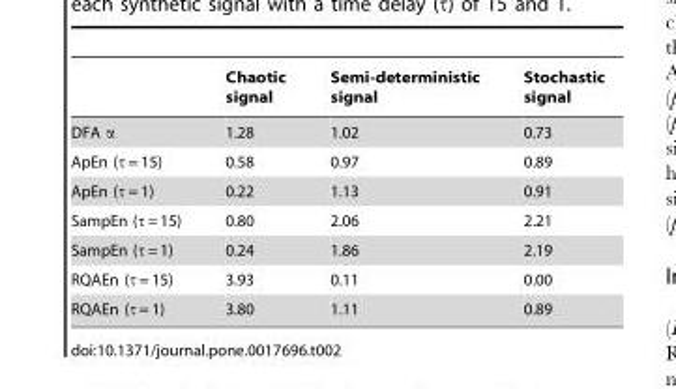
<table><thead><tr><td></td><td>Chaotic signal</td><td>Semi-deterministic signal</td><td>Stochastic signal</td></tr></thead><tbody><tr><td>DFA α</td><td>1.28</td><td>1.02</td><td>0.73</td></tr><tr><td>ApEn (τ = 15)</td><td>0.58</td><td>0.97</td><td>0.89</td></tr><tr><td>ApEn (τ = 1)</td><td>0.22</td><td>1.13</td><td>0.91</td></tr><tr><td>SampEn (τ = 15)</td><td>0.80</td><td>2.06</td><td>2.21</td></tr><tr><td>SampEn (τ = 1)</td><td>0.24</td><td>1.86</td><td>2.19</td></tr><tr><td>RQAEn (τ = 15)</td><td>3.93</td><td>0.11</td><td>0.00</td></tr><tr><td>RQAEn (τ = 1)</td><td>3.80</td><td>1.11</td><td>0.89</td></tr></tbody></table>